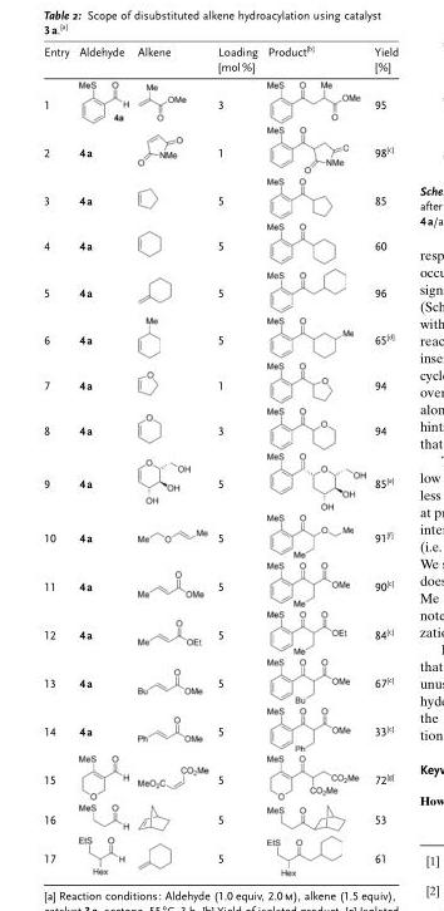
<table><thead><tr><td>Entry</td><td>Aldehyde</td><td>Alkene</td><td>Loading [mol%]</td><td>Product<sup>[b]</sup></td><td>Yield [%]</td></tr></thead><tbody><tr><td>1</td><td></td><td></td><td>3</td><td></td><td>95</td></tr><tr><td>2</td><td>4a</td><td></td><td>1</td><td></td><td>98<sup>[c]</sup></td></tr><tr><td>3</td><td>4a</td><td></td><td>5</td><td></td><td>85</td></tr><tr><td>4</td><td>4a</td><td></td><td>5</td><td></td><td>60</td></tr><tr><td>5</td><td>4a</td><td></td><td>5</td><td></td><td>96</td></tr><tr><td>6</td><td>4a</td><td></td><td>5</td><td></td><td>65<sup>[d]</sup></td></tr><tr><td>7</td><td>4a</td><td></td><td>1</td><td></td><td>94</td></tr><tr><td>8</td><td>4a</td><td></td><td>3</td><td></td><td>94</td></tr><tr><td>9</td><td>4a</td><td></td><td>5</td><td></td><td>85<sup>[e]</sup></td></tr><tr><td>10</td><td>4a</td><td></td><td>5</td><td></td><td>91<sup>[f]</sup></td></tr><tr><td>11</td><td>4a</td><td></td><td>5</td><td></td><td>90<sup>[c]</sup></td></tr><tr><td>12</td><td>4a</td><td></td><td>5</td><td></td><td>84<sup>[c]</sup></td></tr><tr><td>13</td><td>4a</td><td></td><td>5</td><td></td><td>67<sup>[c]</sup></td></tr><tr><td>14</td><td>4a</td><td></td><td>5</td><td></td><td>33<sup>[c]</sup></td></tr><tr><td>15</td><td></td><td></td><td>5</td><td></td><td>72<sup>[g]</sup></td></tr><tr><td>16</td><td></td><td></td><td>5</td><td></td><td>53</td></tr><tr><td>17</td><td></td><td></td><td>5</td><td></td><td>61</td></tr></tbody></table>